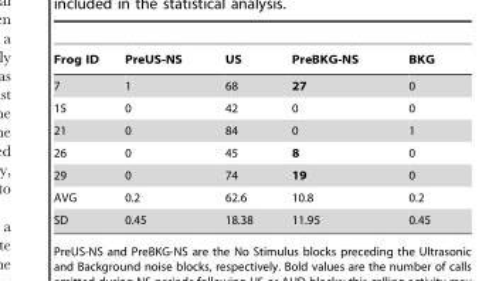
<table><thead><tr><td>Frog ID</td><td>PreUS-NS</td><td>US</td><td>PreBKG-NS</td><td>BKG</td></tr></thead><tbody><tr><td>7</td><td>1</td><td>68</td><td>27</td><td>0</td></tr><tr><td>15</td><td>0</td><td>42</td><td>0</td><td>0</td></tr><tr><td>21</td><td>0</td><td>84</td><td>0</td><td>1</td></tr><tr><td>26</td><td>0</td><td>45</td><td>8</td><td>0</td></tr><tr><td>29</td><td>0</td><td>74</td><td>19</td><td>0</td></tr><tr><td>AVG</td><td>0.2</td><td>62.6</td><td>10.8</td><td>0.2</td></tr><tr><td>SD</td><td>0.45</td><td>18.38</td><td>11.95</td><td>0.45</td></tr></tbody></table>